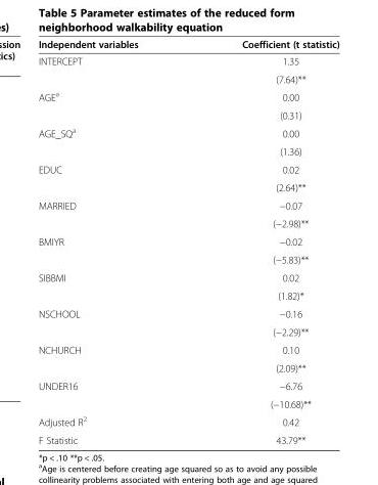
<table><thead><tr><td>Independent variables</td><td>Coefficient (t statistic)</td></tr></thead><tbody><tr><td rowspan="2">INTERCEPT</td><td>1.35</td></tr><tr><td>(7.64)**</td></tr><tr><td rowspan="2">AGE<sup>a</sup></td><td>0.00</td></tr><tr><td>(0.31)</td></tr><tr><td rowspan="2">AGE_SQ<sup>a</sup></td><td>0.00</td></tr><tr><td>(1.36)</td></tr><tr><td rowspan="2">EDUC</td><td>0.02</td></tr><tr><td>(2.64)**</td></tr><tr><td rowspan="2">MARRIED</td><td>−0.07</td></tr><tr><td>(−2.98)**</td></tr><tr><td rowspan="2">BMIYR</td><td>−0.02</td></tr><tr><td>(−5.83)**</td></tr><tr><td rowspan="2">SIBBMI</td><td>0.02</td></tr><tr><td>(1.82)*</td></tr><tr><td rowspan="2">NSCHOOL</td><td>−0.16</td></tr><tr><td>(−2.29)**</td></tr><tr><td rowspan="2">NCHURCH</td><td>0.10</td></tr><tr><td>(2.09)**</td></tr><tr><td rowspan="2">UNDER16</td><td>−6.76</td></tr><tr><td>(−10.68)**</td></tr><tr><td>Adjusted R<sup>2</sup></td><td>0.42</td></tr><tr><td>F Statistic</td><td>43.79**</td></tr></tbody></table>